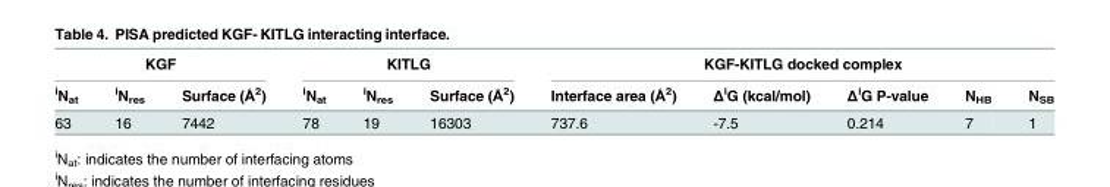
<table><thead><tr><td colspan="3">KGF</td><td colspan="3">KITLG</td><td colspan="5">KGF-KITLG docked complex</td></tr><tr><td><sup>i</sup>N<sub>at</sub></td><td><sup>i</sup>N<sub>res</sub></td><td>Surface (Å<sup>2</sup>)</td><td><sup>i</sup>N<sub>at</sub></td><td><sup>i</sup>N<sub>res</sub></td><td>Surface (Å<sup>2</sup>)</td><td>Interface area (Å<sup>2</sup>)</td><td>Δ<sup>i</sup>G (kcal/mol)</td><td>Δ<sup>i</sup>G P-value</td><td>N<sub>HB</sub></td><td>N<sub>SB</sub></td></tr></thead><tbody><tr><td>63</td><td>16</td><td>7442</td><td>78</td><td>19</td><td>16303</td><td>737.6</td><td>-7.5</td><td>0.214</td><td>7</td><td>1</td></tr></tbody></table>